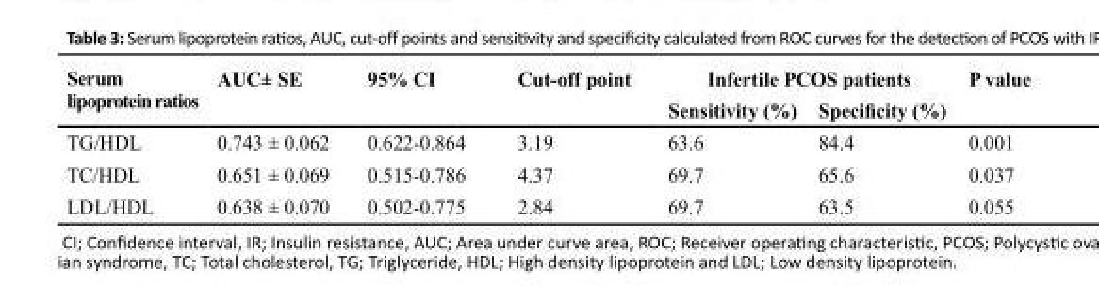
<table><thead><tr><td rowspan="2">Serum lipoprotein ratios</td><td rowspan="2">AUC± SE</td><td rowspan="2">95% CI</td><td rowspan="2">Cut-off point</td><td colspan="2">Infertile PCOS patients</td><td rowspan="2">P value</td></tr><tr><td>Sensitivity (%)</td><td>Specificity (%)</td></tr></thead><tbody><tr><td>TG/HDL</td><td>0.743 ± 0.062</td><td>0.622-0.864</td><td>3.19</td><td>63.6</td><td>84.4</td><td>0.001</td></tr><tr><td>TC/HDL</td><td>0.651 ± 0.069</td><td>0.515-0.786</td><td>4.37</td><td>69.7</td><td>65.6</td><td>0.037</td></tr><tr><td>LDL/HDL</td><td>0.638 ± 0.070</td><td>0.502-0.775</td><td>2.84</td><td>69.7</td><td>63.5</td><td>0.055</td></tr></tbody></table>